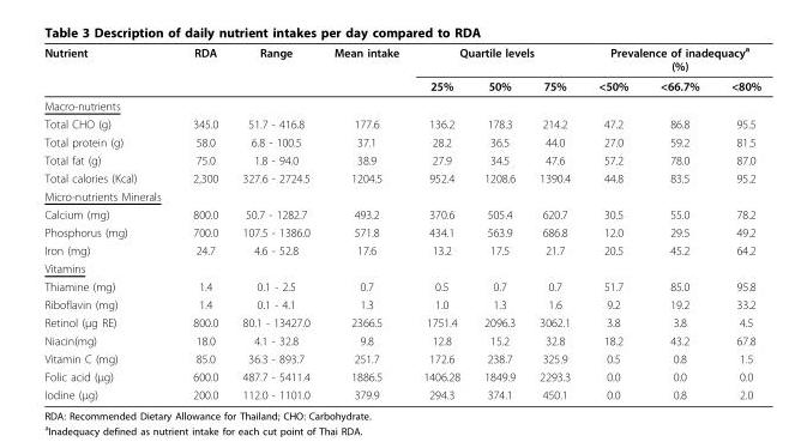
<table><thead><tr><td rowspan="2">Nutrient</td><td rowspan="2">RDA</td><td rowspan="2">Range</td><td rowspan="2">Mean intake</td><td colspan="3">Quartile levels</td><td colspan="3">Prevalence of inadequacy<sup>a</sup> (%)</td></tr><tr><td>25%</td><td>50%</td><td>75%</td><td>&lt;50%</td><td>&lt;66.7%</td><td>&lt;80%</td></tr></thead><tbody><tr><td colspan="10">Macro-nutrients</td></tr><tr><td>Total CHO (g)</td><td>345.0</td><td>51.7 - 416.8</td><td>177.6</td><td>136.2</td><td>178.3</td><td>214.2</td><td>47.2</td><td>86.8</td><td>95.5</td></tr><tr><td>Total protein (g)</td><td>58.0</td><td>6.8 - 100.5</td><td>37.1</td><td>28.2</td><td>36.5</td><td>44.0</td><td>27.0</td><td>59.2</td><td>81.5</td></tr><tr><td>Total fat (g)</td><td>75.0</td><td>1.8 - 94.0</td><td>38.9</td><td>27.9</td><td>34.5</td><td>47.6</td><td>57.2</td><td>78.0</td><td>87.0</td></tr><tr><td>Total calories (Kcal)</td><td>2,300</td><td>327.6 - 2724.5</td><td>1204.5</td><td>952.4</td><td>1208.6</td><td>1390.4</td><td>44.8</td><td>83.5</td><td>95.2</td></tr><tr><td colspan="10">Micro-nutrients Minerals</td></tr><tr><td>Calcium (mg)</td><td>800.0</td><td>50.7 - 1282.7</td><td>493.2</td><td>370.6</td><td>505.4</td><td>620.7</td><td>30.5</td><td>55.0</td><td>78.2</td></tr><tr><td>Phosphorus (mg)</td><td>700.0</td><td>107.5 - 1386.0</td><td>571.8</td><td>434.1</td><td>563.9</td><td>686.8</td><td>12.0</td><td>29.5</td><td>49.2</td></tr><tr><td>Iron (mg)</td><td>24.7</td><td>4.6 - 52.8</td><td>17.6</td><td>13.2</td><td>17.5</td><td>21.7</td><td>20.5</td><td>45.2</td><td>64.2</td></tr><tr><td colspan="10">Vitamins</td></tr><tr><td>Thiamine (mg)</td><td>1.4</td><td>0.1 - 2.5</td><td>0.7</td><td>0.5</td><td>0.7</td><td>0.7</td><td>51.7</td><td>85.0</td><td>95.8</td></tr><tr><td>Riboflavin (mg)</td><td>1.4</td><td>0.1 - 4.1</td><td>1.3</td><td>1.0</td><td>1.3</td><td>1.6</td><td>9.2</td><td>19.2</td><td>33.2</td></tr><tr><td>Retinol (μg RE)</td><td>800.0</td><td>80.1 - 13427.0</td><td>2366.5</td><td>1751.4</td><td>2096.3</td><td>3062.1</td><td>3.8</td><td>3.8</td><td>4.5</td></tr><tr><td>Niacin(mg)</td><td>18.0</td><td>4.1 - 32.8</td><td>9.8</td><td>12.8</td><td>15.2</td><td>32.8</td><td>18.2</td><td>43.2</td><td>67.8</td></tr><tr><td>Vitamin C (mg)</td><td>85.0</td><td>36.3 - 893.7</td><td>251.7</td><td>172.6</td><td>238.7</td><td>325.9</td><td>0.5</td><td>0.8</td><td>1.5</td></tr><tr><td>Folic acid (μg)</td><td>600.0</td><td>487.7 - 5411.4</td><td>1886.5</td><td>1406.28</td><td>1849.9</td><td>2293.3</td><td>0.0</td><td>0.0</td><td>0.0</td></tr><tr><td>Iodine (μg)</td><td>200.0</td><td>112.0 - 1101.0</td><td>379.9</td><td>294.3</td><td>374.1</td><td>450.1</td><td>0.0</td><td>0.8</td><td>2.0</td></tr></tbody></table>